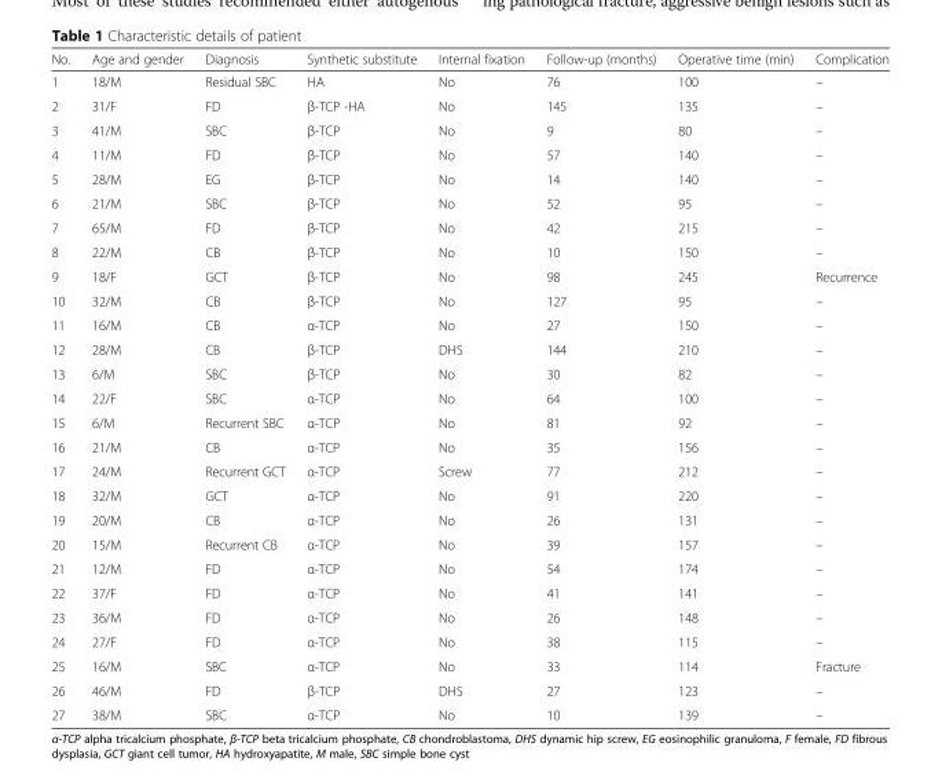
<table><thead><tr><td>No.</td><td>Age and gender</td><td>Diagnosis</td><td>Synthetic substitute</td><td>Internal fixation</td><td>Follow-up (months)</td><td>Operative time (min)</td><td>Complication</td></tr></thead><tbody><tr><td>1</td><td>18/M</td><td>Residual SBC</td><td>HA</td><td>No</td><td>76</td><td>100</td><td>–</td></tr><tr><td>2</td><td>31/F</td><td>FD</td><td>β-TCP -HA</td><td>No</td><td>145</td><td>135</td><td>–</td></tr><tr><td>3</td><td>41/M</td><td>SBC</td><td>β-TCP</td><td>No</td><td>9</td><td>80</td><td>–</td></tr><tr><td>4</td><td>11/M</td><td>FD</td><td>β-TCP</td><td>No</td><td>57</td><td>140</td><td>–</td></tr><tr><td>5</td><td>28/M</td><td>EG</td><td>β-TCP</td><td>No</td><td>14</td><td>140</td><td>–</td></tr><tr><td>6</td><td>21/M</td><td>SBC</td><td>β-TCP</td><td>No</td><td>52</td><td>95</td><td>–</td></tr><tr><td>7</td><td>65/M</td><td>FD</td><td>β-TCP</td><td>No</td><td>42</td><td>215</td><td>–</td></tr><tr><td>8</td><td>22/M</td><td>CB</td><td>β-TCP</td><td>No</td><td>10</td><td>150</td><td>–</td></tr><tr><td>9</td><td>18/F</td><td>GCT</td><td>β-TCP</td><td>No</td><td>98</td><td>245</td><td>Recurrence</td></tr><tr><td>10</td><td>32/M</td><td>CB</td><td>β-TCP</td><td>No</td><td>127</td><td>95</td><td>–</td></tr><tr><td>11</td><td>16/M</td><td>CB</td><td>α-TCP</td><td>No</td><td>27</td><td>150</td><td>–</td></tr><tr><td>12</td><td>28/M</td><td>CB</td><td>β-TCP</td><td>DHS</td><td>144</td><td>210</td><td>–</td></tr><tr><td>13</td><td>6/M</td><td>SBC</td><td>β-TCP</td><td>No</td><td>30</td><td>82</td><td>–</td></tr><tr><td>14</td><td>22/F</td><td>SBC</td><td>α-TCP</td><td>No</td><td>64</td><td>100</td><td>–</td></tr><tr><td>15</td><td>6/M</td><td>Recurrent SBC</td><td>α-TCP</td><td>No</td><td>81</td><td>92</td><td>–</td></tr><tr><td>16</td><td>21/M</td><td>CB</td><td>α-TCP</td><td>No</td><td>35</td><td>156</td><td>–</td></tr><tr><td>17</td><td>24/M</td><td>Recurrent GCT</td><td>α-TCP</td><td>Screw</td><td>77</td><td>212</td><td>–</td></tr><tr><td>18</td><td>32/M</td><td>GCT</td><td>α-TCP</td><td>No</td><td>91</td><td>220</td><td>–</td></tr><tr><td>19</td><td>20/M</td><td>CB</td><td>α-TCP</td><td>No</td><td>26</td><td>131</td><td>–</td></tr><tr><td>20</td><td>15/M</td><td>Recurrent CB</td><td>α-TCP</td><td>No</td><td>39</td><td>157</td><td>–</td></tr><tr><td>21</td><td>12/M</td><td>FD</td><td>α-TCP</td><td>No</td><td>54</td><td>174</td><td>–</td></tr><tr><td>22</td><td>37/F</td><td>FD</td><td>α-TCP</td><td>No</td><td>41</td><td>141</td><td>–</td></tr><tr><td>23</td><td>36/M</td><td>FD</td><td>α-TCP</td><td>No</td><td>26</td><td>148</td><td>–</td></tr><tr><td>24</td><td>27/F</td><td>FD</td><td>α-TCP</td><td>No</td><td>38</td><td>115</td><td>–</td></tr><tr><td>25</td><td>16/M</td><td>SBC</td><td>α-TCP</td><td>No</td><td>33</td><td>114</td><td>Fracture</td></tr><tr><td>26</td><td>46/M</td><td>FD</td><td>β-TCP</td><td>DHS</td><td>27</td><td>123</td><td>–</td></tr><tr><td>27</td><td>38/M</td><td>SBC</td><td>α-TCP</td><td>No</td><td>10</td><td>139</td><td>–</td></tr></tbody></table>